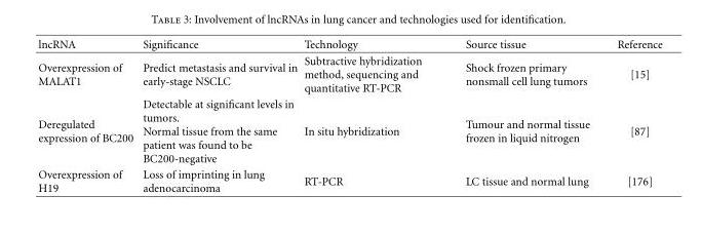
<table><thead><tr><td>lncRNA</td><td>Significance</td><td>Technology</td><td>Source tissue</td><td>Reference</td></tr></thead><tbody><tr><td>Overexpression of MALAT1</td><td>Predict metastasis and survival in early-stage NSCLC</td><td>Subtractive hybridization method, sequencing and quantitative RT-PCR</td><td>Shock frozen primary nonsmall cell lung tumors</td><td>[15]</td></tr><tr><td>Deregulated expression of BC200</td><td>Detectable at significant levels in tumors. Normal tissue from the same patient was found to be BC200-negative</td><td>In situ hybridization</td><td>Tumour and normal tissue frozen in liquid nitrogen</td><td>[87]</td></tr><tr><td>Overexpression of H19</td><td>Loss of imprinting in lung adenocarcinoma</td><td>RT-PCR</td><td>LC tissue and normal lung</td><td>[176]</td></tr></tbody></table>